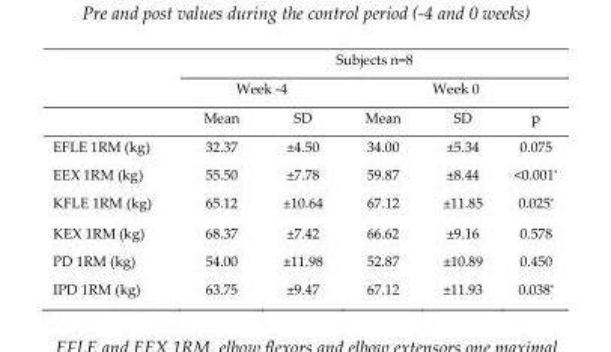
<table><thead><tr><td rowspan="3"></td><td colspan="5">Subjects n=8</td></tr><tr><td colspan="2">Week -4</td><td colspan="3">Week 0</td></tr><tr><td>Mean</td><td>SD</td><td>Mean</td><td>SD</td><td>p</td></tr></thead><tbody><tr><td>EFLE 1RM (kg)</td><td>32.37</td><td>±4.50</td><td>34.00</td><td>±5.34</td><td>0.075</td></tr><tr><td>EEX 1RM (kg)</td><td>55.50</td><td>±7.78</td><td>59.87</td><td>±8.44</td><td>&lt;0.001*</td></tr><tr><td>KFLE 1RM (kg)</td><td>65.12</td><td>±10.64</td><td>67.12</td><td>±11.85</td><td>0.025*</td></tr><tr><td>KEX 1RM (kg)</td><td>68.37</td><td>±7.42</td><td>66.62</td><td>±9.16</td><td>0.578</td></tr><tr><td>PD 1RM (kg)</td><td>54.00</td><td>±11.98</td><td>52.87</td><td>±10.89</td><td>0.450</td></tr><tr><td>IPD 1RM (kg)</td><td>63.75</td><td>±9.47</td><td>67.12</td><td>±11.93</td><td>0.038*</td></tr></tbody></table>